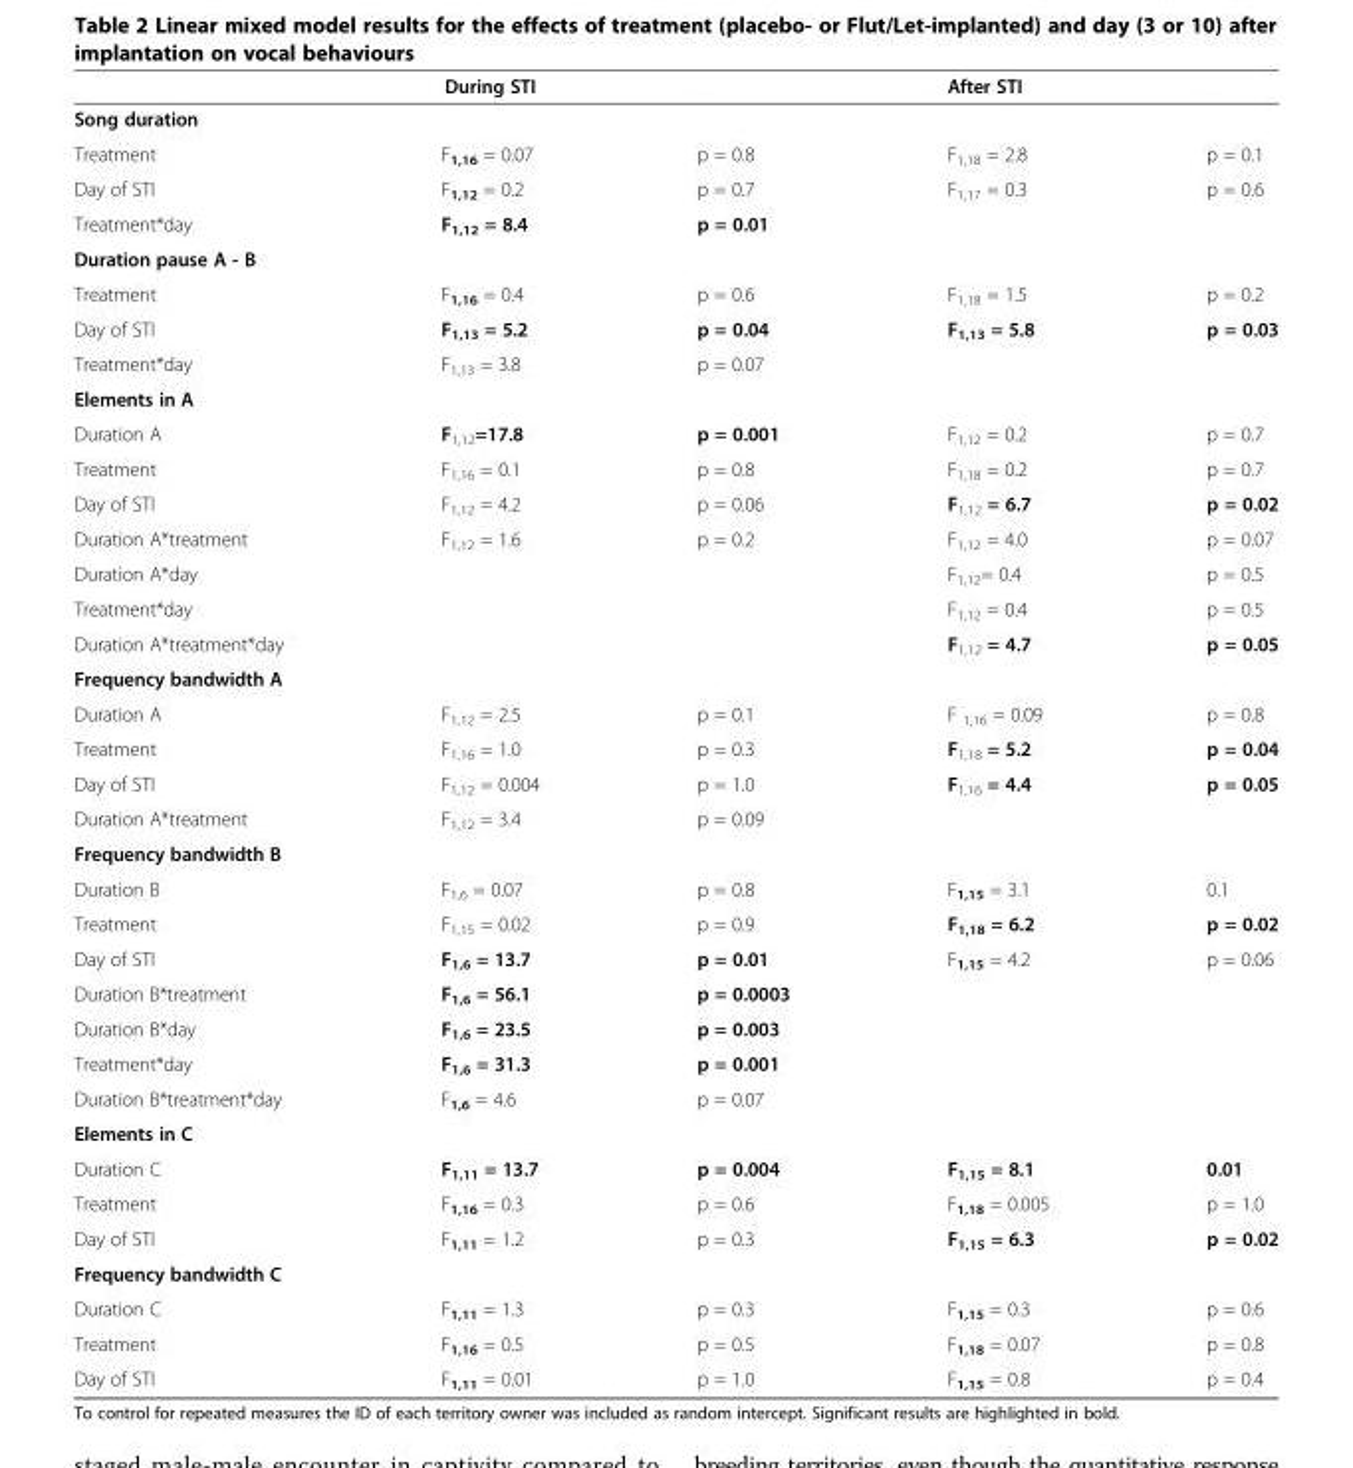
<table><thead><tr><td></td><td>During STI</td><td></td><td>After STI</td><td></td></tr></thead><tbody><tr><td colspan="5">Song duration</td></tr><tr><td>Treatment</td><td>F<sub>1,16</sub> = 0.07</td><td>p = 0.8</td><td>F<sub>1,18</sub> = 2.8</td><td>p = 0.1</td></tr><tr><td>Day of STI</td><td>F<sub>1,12</sub> = 0.2</td><td>p = 0.7</td><td>F<sub>1,17</sub> = 0.3</td><td>p = 0.6</td></tr><tr><td>Treatment*day</td><td>F<sub>1,12</sub> = 8.4</td><td>p = 0.01</td><td></td><td></td></tr><tr><td colspan="5">Duration pause A - B</td></tr><tr><td>Treatment</td><td>F<sub>1,16</sub> = 0.4</td><td>p = 0.6</td><td>F<sub>1,18</sub> = 1.5</td><td>p = 0.2</td></tr><tr><td>Day of STI</td><td>F<sub>1,13</sub> = 5.2</td><td>p = 0.04</td><td>F<sub>1,13</sub> = 5.8</td><td>p = 0.03</td></tr><tr><td>Treatment*day</td><td>F<sub>1,13</sub> = 3.8</td><td>p = 0.07</td><td></td><td></td></tr><tr><td colspan="5">Elements in A</td></tr><tr><td>Duration A</td><td>F<sub>1,12</sub>=17.8</td><td>p = 0.001</td><td>F<sub>1,12</sub> = 0.2</td><td>p = 0.7</td></tr><tr><td>Treatment</td><td>F<sub>1,16</sub> = 0.1</td><td>p = 0.8</td><td>F<sub>1,18</sub> = 0.2</td><td>p = 0.7</td></tr><tr><td>Day of STI</td><td>F<sub>1,12</sub> = 4.2</td><td>p = 0.06</td><td>F<sub>1,12</sub> = 6.7</td><td>p = 0.02</td></tr><tr><td>Duration A*treatment</td><td>F<sub>1,12</sub> = 1.6</td><td>p = 0.2</td><td>F<sub>1,12</sub> = 4.0</td><td>p = 0.07</td></tr><tr><td>Duration A*day</td><td></td><td></td><td>F<sub>1,12</sub>= 0.4</td><td>p = 0.5</td></tr><tr><td>Treatment*day</td><td></td><td></td><td>F<sub>1,12</sub> = 0.4</td><td>p = 0.5</td></tr><tr><td>Duration A*treatment*day</td><td></td><td></td><td>F<sub>1,12</sub> = 4.7</td><td>p = 0.05</td></tr><tr><td colspan="5">Frequency bandwidth A</td></tr><tr><td>Duration A</td><td>F<sub>1,12</sub> = 2.5</td><td>p = 0.1</td><td>F <sub>1,16</sub> = 0.09</td><td>p = 0.8</td></tr><tr><td>Treatment</td><td>F<sub>1,16</sub> = 1.0</td><td>p = 0.3</td><td>F<sub>1,18</sub> = 5.2</td><td>p = 0.04</td></tr><tr><td>Day of STI</td><td>F<sub>1,12</sub> = 0.004</td><td>p = 1.0</td><td>F<sub>1,16</sub> = 4.4</td><td>p = 0.05</td></tr><tr><td>Duration A*treatment</td><td>F<sub>1,12</sub> = 3.4</td><td>p = 0.09</td><td></td><td></td></tr><tr><td colspan="5">Frequency bandwidth B</td></tr><tr><td>Duration B</td><td>F<sub>1,6</sub> = 0.07</td><td>p = 0.8</td><td>F<sub>1,15</sub> = 3.1</td><td>0.1</td></tr><tr><td>Treatment</td><td>F<sub>1,15</sub> = 0.02</td><td>p = 0.9</td><td>F<sub>1,18</sub> = 6.2</td><td>p = 0.02</td></tr><tr><td>Day of STI</td><td>F<sub>1,6</sub> = 13.7</td><td>p = 0.01</td><td>F<sub>1,15</sub> = 4.2</td><td>p = 0.06</td></tr><tr><td>Duration B*treatment</td><td>F<sub>1,6</sub> = 56.1</td><td>p = 0.0003</td><td></td><td></td></tr><tr><td>Duration B*day</td><td>F<sub>1,6</sub> = 23.5</td><td>p = 0.003</td><td></td><td></td></tr><tr><td>Treatment*day</td><td>F<sub>1,6</sub> = 31.3</td><td>p = 0.001</td><td></td><td></td></tr><tr><td>Duration B*treatment*day</td><td>F<sub>1,6</sub> = 4.6</td><td>p = 0.07</td><td></td><td></td></tr><tr><td colspan="5">Elements in C</td></tr><tr><td>Duration C</td><td>F<sub>1,11</sub> = 13.7</td><td>p = 0.004</td><td>F<sub>1,15</sub> = 8.1</td><td>0.01</td></tr><tr><td>Treatment</td><td>F<sub>1,16</sub> = 0.3</td><td>p = 0.6</td><td>F<sub>1,18</sub> = 0.005</td><td>p = 1.0</td></tr><tr><td>Day of STI</td><td>F<sub>1,11</sub> = 1.2</td><td>p = 0.3</td><td>F<sub>1,15</sub> = 6.3</td><td>p = 0.02</td></tr><tr><td colspan="5">Frequency bandwidth C</td></tr><tr><td>Duration C</td><td>F<sub>1,11</sub> = 1.3</td><td>p = 0.3</td><td>F<sub>1,15</sub> = 0.3</td><td>p = 0.6</td></tr><tr><td>Treatment</td><td>F<sub>1,16</sub> = 0.5</td><td>p = 0.5</td><td>F<sub>1,18</sub> = 0.07</td><td>p = 0.8</td></tr><tr><td>Day of STI</td><td>F<sub>1,11</sub> = 0.01</td><td>p = 1.0</td><td>F<sub>1,15</sub> = 0.8</td><td>p = 0.4</td></tr></tbody></table>